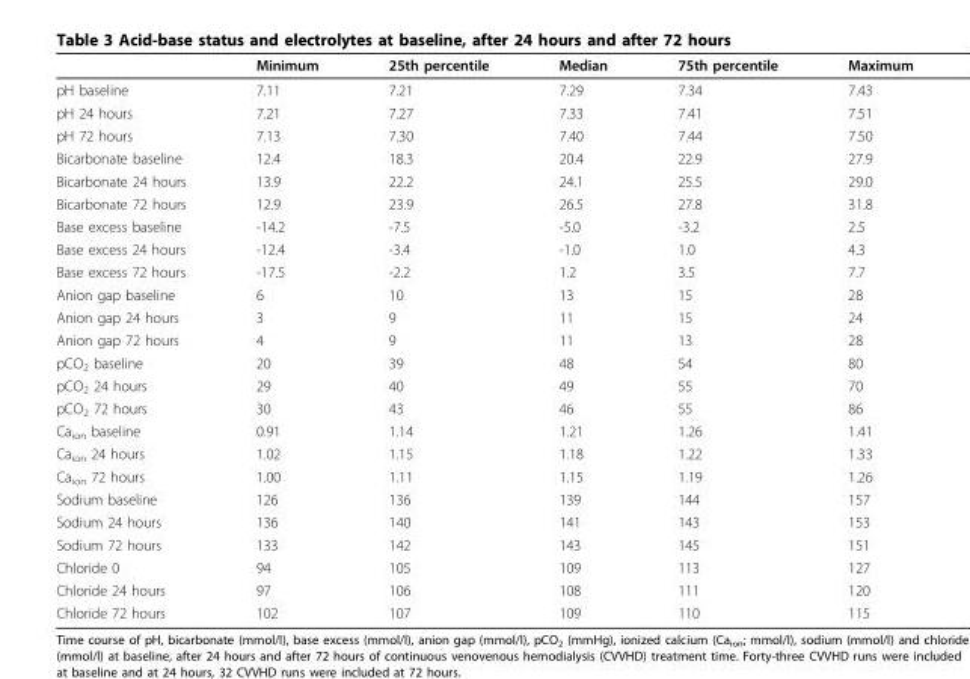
<table><thead><tr><td></td><td>Minimum</td><td>25th percentile</td><td>Median</td><td>75th percentile</td><td>Maximum</td></tr></thead><tbody><tr><td>pH baseline</td><td>7.11</td><td>7.21</td><td>7.29</td><td>7.34</td><td>7.43</td></tr><tr><td>pH 24 hours</td><td>7.21</td><td>7.27</td><td>7.33</td><td>7.41</td><td>7.51</td></tr><tr><td>pH 72 hours</td><td>7.13</td><td>7.30</td><td>7.40</td><td>7.44</td><td>7.50</td></tr><tr><td>Bicarbonate baseline</td><td>12.4</td><td>18.3</td><td>20.4</td><td>22.9</td><td>27.9</td></tr><tr><td>Bicarbonate 24 hours</td><td>13.9</td><td>22.2</td><td>24.1</td><td>25.5</td><td>29.0</td></tr><tr><td>Bicarbonate 72 hours</td><td>12.9</td><td>23.9</td><td>26.5</td><td>27.8</td><td>31.8</td></tr><tr><td>Base excess baseline</td><td>-14.2</td><td>-7.5</td><td>-5.0</td><td>-3.2</td><td>2.5</td></tr><tr><td>Base excess 24 hours</td><td>-12.4</td><td>-3.4</td><td>-1.0</td><td>1.0</td><td>4.3</td></tr><tr><td>Base excess 72 hours</td><td>-17.5</td><td>-2.2</td><td>1.2</td><td>3.5</td><td>7.7</td></tr><tr><td>Anion gap baseline</td><td>6</td><td>10</td><td>13</td><td>15</td><td>28</td></tr><tr><td>Anion gap 24 hours</td><td>3</td><td>9</td><td>11</td><td>15</td><td>24</td></tr><tr><td>Anion gap 72 hours</td><td>4</td><td>9</td><td>11</td><td>13</td><td>28</td></tr><tr><td>pCO<sub>2</sub> baseline</td><td>20</td><td>39</td><td>48</td><td>54</td><td>80</td></tr><tr><td>pCO<sub>2</sub> 24 hours</td><td>29</td><td>40</td><td>49</td><td>55</td><td>70</td></tr><tr><td>pCO<sub>2</sub> 72 hours</td><td>30</td><td>43</td><td>46</td><td>55</td><td>86</td></tr><tr><td>Ca<sub>ion</sub> baseline</td><td>0.91</td><td>1.14</td><td>1.21</td><td>1.26</td><td>1.41</td></tr><tr><td>Ca<sub>ion</sub> 24 hours</td><td>1.02</td><td>1.15</td><td>1.18</td><td>1.22</td><td>1.33</td></tr><tr><td>Ca<sub>ion</sub> 72 hours</td><td>1.00</td><td>1.11</td><td>1.15</td><td>1.19</td><td>1.26</td></tr><tr><td>Sodium baseline</td><td>126</td><td>136</td><td>139</td><td>144</td><td>157</td></tr><tr><td>Sodium 24 hours</td><td>136</td><td>140</td><td>141</td><td>143</td><td>153</td></tr><tr><td>Sodium 72 hours</td><td>133</td><td>142</td><td>143</td><td>145</td><td>151</td></tr><tr><td>Chloride 0</td><td>94</td><td>105</td><td>109</td><td>113</td><td>127</td></tr><tr><td>Chloride 24 hours</td><td>97</td><td>106</td><td>108</td><td>111</td><td>120</td></tr><tr><td>Chloride 72 hours</td><td>102</td><td>107</td><td>109</td><td>110</td><td>115</td></tr></tbody></table>